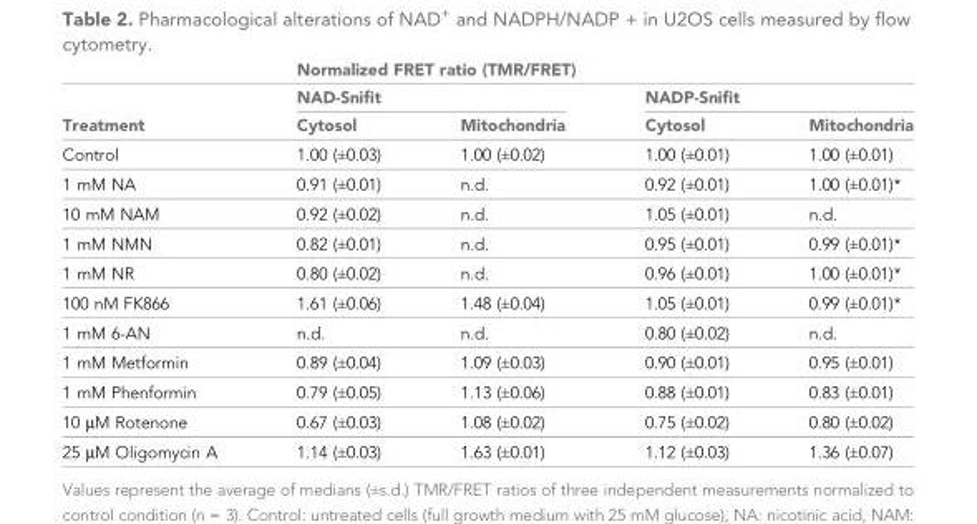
<table><thead><tr><td rowspan="3">Treatment</td><td colspan="4">Normalized FRET ratio (TMR/FRET)</td></tr><tr><td colspan="2">NAD-Snifit</td><td colspan="2">NADP-Snifit</td></tr><tr><td>Cytosol</td><td>Mitochondria</td><td>Cytosol</td><td>Mitochondria</td></tr></thead><tbody><tr><td>Control</td><td>1.00 (±0.03)</td><td>1.00 (±0.02)</td><td>1.00 (±0.01)</td><td>1.00 (±0.01)</td></tr><tr><td>1 mM NA</td><td>0.91 (±0.01)</td><td>n.d.</td><td>0.92 (±0.01)</td><td>1.00 (±0.01)*</td></tr><tr><td>10 mM NAM</td><td>0.92 (±0.02)</td><td>n.d.</td><td>1.05 (±0.01)</td><td>n.d.</td></tr><tr><td>1 mM NMN</td><td>0.82 (±0.01)</td><td>n.d.</td><td>0.95 (±0.01)</td><td>0.99 (±0.01)*</td></tr><tr><td>1 mM NR</td><td>0.80 (±0.02)</td><td>n.d.</td><td>0.96 (±0.01)</td><td>1.00 (±0.01)*</td></tr><tr><td>100 nM FK866</td><td>1.61 (±0.06)</td><td>1.48 (±0.04)</td><td>1.05 (±0.01)</td><td>0.99 (±0.01)*</td></tr><tr><td>1 mM 6-AN</td><td>n.d.</td><td>n.d.</td><td>0.80 (±0.02)</td><td>n.d.</td></tr><tr><td>1 mM Metformin</td><td>0.89 (±0.04)</td><td>1.09 (±0.03)</td><td>0.90 (±0.01)</td><td>0.95 (±0.01)</td></tr><tr><td>1 mM Phenformin</td><td>0.79 (±0.05)</td><td>1.13 (±0.06)</td><td>0.88 (±0.01)</td><td>0.83 (±0.01)</td></tr><tr><td>10 µM Rotenone</td><td>0.67 (±0.03)</td><td>1.08 (±0.02)</td><td>0.75 (±0.02)</td><td>0.80 (±0.02)</td></tr><tr><td>25 µM Oligomycin A</td><td>1.14 (±0.03)</td><td>1.63 (±0.01)</td><td>1.12 (±0.03)</td><td>1.36 (±0.07)</td></tr></tbody></table>